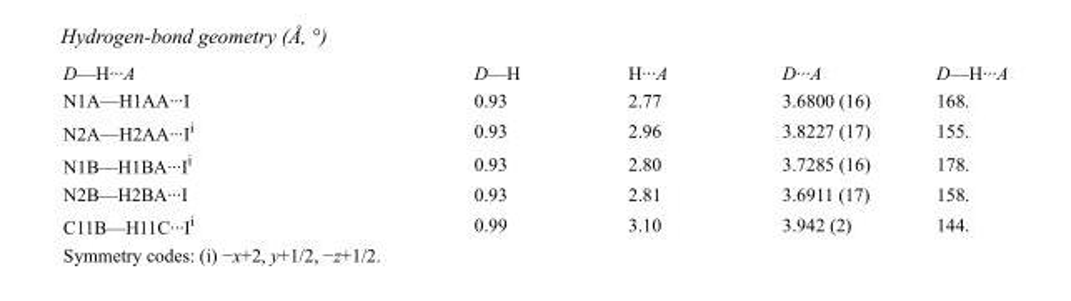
<table><tbody><tr><td>D—H···A</td><td>D—H</td><td>H···A</td><td>D···A</td><td>D—H···A</td></tr><tr><td>N1A—H1AA···I</td><td>0.93</td><td>2.77</td><td>3.6800 (16)</td><td>168.</td></tr><tr><td>N2A—H2AA···I<sup>i</sup></td><td>0.93</td><td>2.96</td><td>3.8227 (17)</td><td>155.</td></tr><tr><td>N1B—H1BA···I<sup>i</sup></td><td>0.93</td><td>2.80</td><td>3.7285 (16)</td><td>178.</td></tr><tr><td>N2B—H2BA···I</td><td>0.93</td><td>2.81</td><td>3.6911 (17)</td><td>158.</td></tr><tr><td>C11B—H11C···I<sup>i</sup></td><td>0.99</td><td>3.10</td><td>3.942 (2)</td><td>144.</td></tr></tbody></table>